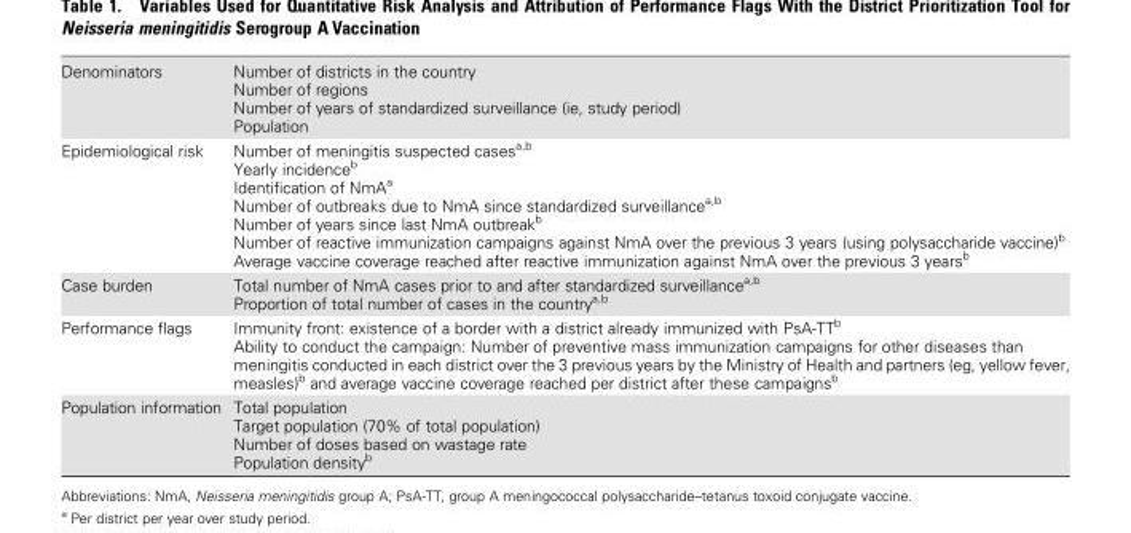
<table><tbody><tr><td>Denominators</td><td>Number of districts in the country Number of regions Number of years of standardized surveillance (ie, study period) Population</td></tr><tr><td>Epidemiological risk</td><td>Number of meningitis suspected cases<sup>a,b</sup> Yearly incidence<sup>b</sup> Identification of NmA<sup>a</sup> Number of outbreaks due to NmA since standardized surveillance<sup>a,b</sup> Number of years since last NmA outbreak<sup>b</sup> Number of reactive immunization campaigns against NmA over the previous 3 years (using polysaccharide vaccine)<sup>b</sup> Average vaccine coverage reached after reactive immunization against NmA over the previous 3 years<sup>b</sup></td></tr><tr><td>Case burden</td><td>Total number of NmA cases prior to and after standardized surveillance<sup>a,b</sup> Proportion of total number of cases in the country<sup>a,b</sup></td></tr><tr><td>Performance flags</td><td>Immunity front: existence of a border with a district already immunized with PsA-TT<sup>b</sup> Ability to conduct the campaign: Number of preventive mass immunization campaigns for other diseases than meningitis conducted in each district over the 3 previous years by the Ministry of Health and partners (eg, yellow fever, measles)<sup>b</sup> and average vaccine coverage reached per district after these campaigns<sup>b</sup></td></tr><tr><td>Population information</td><td>Total population Target population (70% of total population) Number of doses based on wastage rate Population density<sup>b</sup></td></tr></tbody></table>